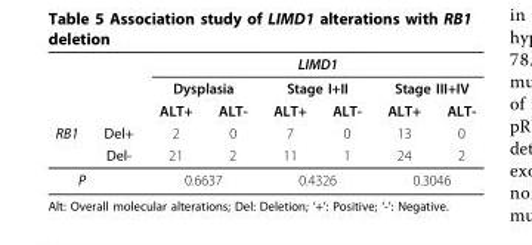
<table><thead><tr><td rowspan="5">RB1</td><td rowspan="5">Del+ Del-</td><td colspan="6">LIMD1</td></tr><tr><td colspan="2">Dysplasia</td><td colspan="2">Stage I+II</td><td colspan="2">Stage III+IV</td></tr><tr><td rowspan="3">ALT+ 2 21</td><td rowspan="3">ALT- 0 2</td><td rowspan="3">ALT+ 7 11</td><td rowspan="3">ALT- 0 1</td><td rowspan="3">ALT+ 13 24</td><td rowspan="3">ALT- 0 2</td></tr><tr></tr><tr></tr></thead><tbody><tr><td>P</td><td></td><td colspan="2">0.6637</td><td colspan="2">0.4326</td><td colspan="2">0.3046</td></tr></tbody></table>